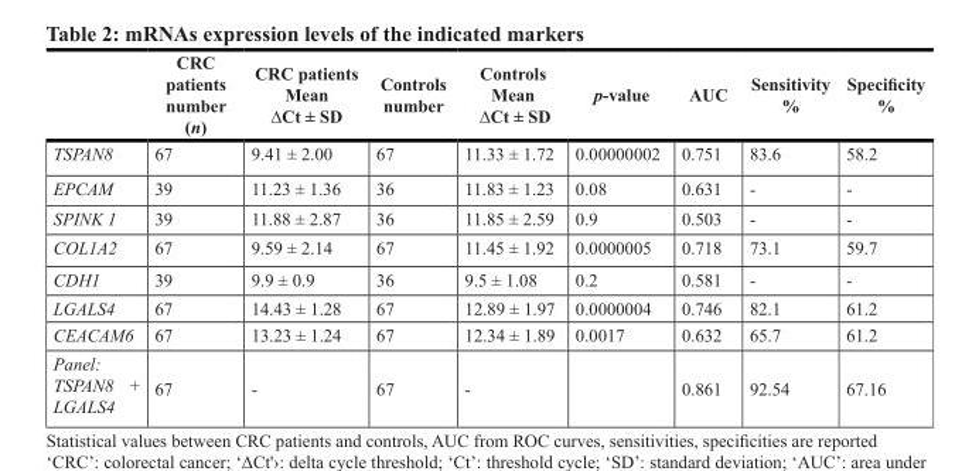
<table><thead><tr><td></td><td>CRC patients number (n)</td><td>CRC patients Mean ∆Ct ± SD</td><td>Controls number</td><td>Controls Mean ∆Ct ± SD</td><td>p-value</td><td>AUC</td><td>Sensitivity %</td><td>Specificity %</td></tr></thead><tbody><tr><td>TSPAN8</td><td>67</td><td>9.41 ± 2.00</td><td>67</td><td>11.33 ± 1.72</td><td>0.00000002</td><td>0.751</td><td>83.6</td><td>58.2</td></tr><tr><td>EPCAM</td><td>39</td><td>11.23 ± 1.36</td><td>36</td><td>11.83 ± 1.23</td><td>0.08</td><td>0.631</td><td>-</td><td>-</td></tr><tr><td>SPINK 1</td><td>39</td><td>11.88 ± 2.87</td><td>36</td><td>11.85 ± 2.59</td><td>0.9</td><td>0.503</td><td>-</td><td>-</td></tr><tr><td>COL1A2</td><td>67</td><td>9.59 ± 2.14</td><td>67</td><td>11.45 ± 1.92</td><td>0.0000005</td><td>0.718</td><td>73.1</td><td>59.7</td></tr><tr><td>CDH1</td><td>39</td><td>9.9 ± 0.9</td><td>36</td><td>9.5 ± 1.08</td><td>0.2</td><td>0.581</td><td>-</td><td>-</td></tr><tr><td>LGALS4</td><td>67</td><td>14.43 ± 1.28</td><td>67</td><td>12.89 ± 1.97</td><td>0.0000004</td><td>0.746</td><td>82.1</td><td>61.2</td></tr><tr><td>CEACAM6</td><td>67</td><td>13.23 ± 1.24</td><td>67</td><td>12.34 ± 1.89</td><td>0.0017</td><td>0.632</td><td>65.7</td><td>61.2</td></tr><tr><td>Panel: TSPAN8 + LGALS4</td><td>67</td><td>-</td><td>67</td><td>-</td><td></td><td>0.861</td><td>92.54</td><td>67.16</td></tr></tbody></table>